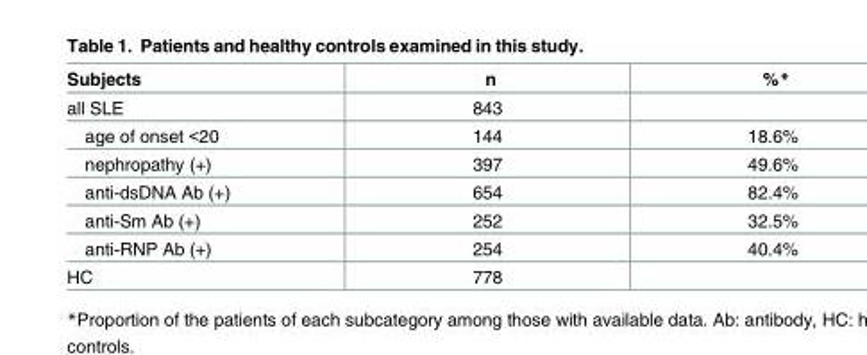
<table><thead><tr><td>Subjects</td><td>n</td><td>%*</td></tr></thead><tbody><tr><td>all SLE</td><td>843</td><td></td></tr><tr><td>age of onset &lt;20</td><td>144</td><td>18.6%</td></tr><tr><td>nephropathy (+)</td><td>397</td><td>49.6%</td></tr><tr><td>anti-dsDNA Ab (+)</td><td>654</td><td>82.4%</td></tr><tr><td>anti-Sm Ab (+)</td><td>252</td><td>32.5%</td></tr><tr><td>anti-RNP Ab (+)</td><td>254</td><td>40.4%</td></tr><tr><td>HC</td><td>778</td><td></td></tr></tbody></table>